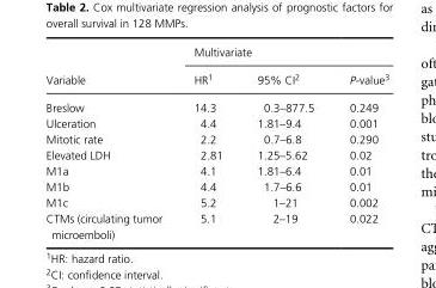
<table><thead><tr><td rowspan="2">Variable</td><td colspan="3">Multivariate</td></tr><tr><td>HR1</td><td>95% CI2</td><td>P-value3</td></tr></thead><tbody><tr><td>Breslow</td><td>14.3</td><td>0.3–877.5</td><td>0.249</td></tr><tr><td>Ulceration</td><td>4.4</td><td>1.81–9.4</td><td>0.001</td></tr><tr><td>Mitotic rate</td><td>2.2</td><td>0.7–6.8</td><td>0.290</td></tr><tr><td>Elevated LDH</td><td>2.81</td><td>1.25–5.62</td><td>0.02</td></tr><tr><td>M1a</td><td>4.1</td><td>1.81–6.4</td><td>0.01</td></tr><tr><td>M1b</td><td>4.4</td><td>1.7–6.6</td><td>0.01</td></tr><tr><td>M1c</td><td>5.2</td><td>1–21</td><td>0.002</td></tr><tr><td>CTMs (circulating tumor microemboli)</td><td>5.1</td><td>2–19</td><td>0.022</td></tr></tbody></table>